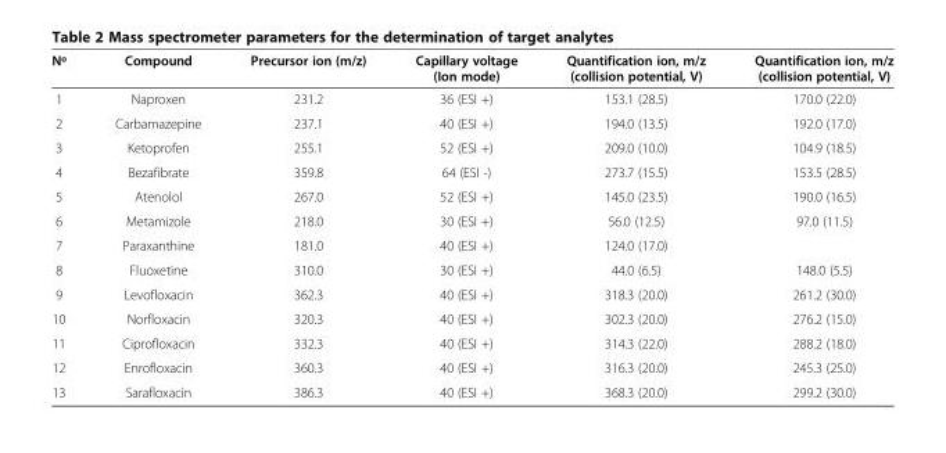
<table><thead><tr><td>Nº</td><td>Compound</td><td>Precursor ion (m/z)</td><td>Capillary voltage (Ion mode)</td><td>Quantification ion, m/z (collision potential, V)</td><td>Quantification ion, m/z (collision potential, V)</td></tr></thead><tbody><tr><td>1</td><td>Naproxen</td><td>231.2</td><td>36 (ESI +)</td><td>153.1 (28.5)</td><td>170.0 (22.0)</td></tr><tr><td>2</td><td>Carbamazepine</td><td>237.1</td><td>40 (ESI +)</td><td>194.0 (13.5)</td><td>192.0 (17.0)</td></tr><tr><td>3</td><td>Ketoprofen</td><td>255.1</td><td>52 (ESI +)</td><td>209.0 (10.0)</td><td>104.9 (18.5)</td></tr><tr><td>4</td><td>Bezafibrate</td><td>359.8</td><td>64 (ESI -)</td><td>273.7 (15.5)</td><td>153.5 (28.5)</td></tr><tr><td>5</td><td>Atenolol</td><td>267.0</td><td>52 (ESI +)</td><td>145.0 (23.5)</td><td>190.0 (16.5)</td></tr><tr><td>6</td><td>Metamizole</td><td>218.0</td><td>30 (ESI +)</td><td>56.0 (12.5)</td><td>97.0 (11.5)</td></tr><tr><td>7</td><td>Paraxanthine</td><td>181.0</td><td>40 (ESI +)</td><td>124.0 (17.0)</td><td></td></tr><tr><td>8</td><td>Fluoxetine</td><td>310.0</td><td>30 (ESI +)</td><td>44.0 (6.5)</td><td>148.0 (5.5)</td></tr><tr><td>9</td><td>Levofloxacin</td><td>362.3</td><td>40 (ESI +)</td><td>318.3 (20.0)</td><td>261.2 (30.0)</td></tr><tr><td>10</td><td>Norfloxacin</td><td>320.3</td><td>40 (ESI +)</td><td>302.3 (20.0)</td><td>276.2 (15.0)</td></tr><tr><td>11</td><td>Ciprofloxacin</td><td>332.3</td><td>40 (ESI +)</td><td>314.3 (22.0)</td><td>288.2 (18.0)</td></tr><tr><td>12</td><td>Enrofloxacin</td><td>360.3</td><td>40 (ESI +)</td><td>316.3 (20.0)</td><td>245.3 (25.0)</td></tr><tr><td>13</td><td>Sarafloxacin</td><td>386.3</td><td>40 (ESI +)</td><td>368.3 (20.0)</td><td>299.2 (30.0)</td></tr></tbody></table>